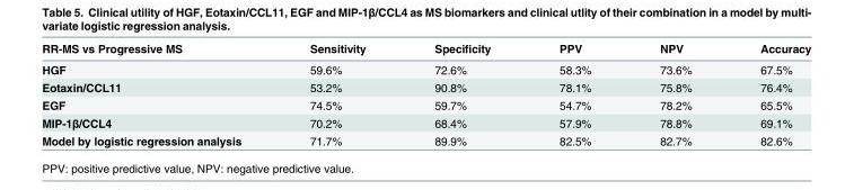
<table><thead><tr><td>RR-MS vs Progressive MS</td><td>Sensitivity</td><td>Specificity</td><td>PPV</td><td>NPV</td><td>Accuracy</td></tr></thead><tbody><tr><td>HGF</td><td>59.6%</td><td>72.6%</td><td>58.3%</td><td>73.6%</td><td>67.5%</td></tr><tr><td>Eotaxin/CCL11</td><td>53.2%</td><td>90.8%</td><td>78.1%</td><td>75.8%</td><td>76.4%</td></tr><tr><td>EGF</td><td>74.5%</td><td>59.7%</td><td>54.7%</td><td>78.2%</td><td>65.5%</td></tr><tr><td>MIP-1β/CCL4</td><td>70.2%</td><td>68.4%</td><td>57.9%</td><td>78.8%</td><td>69.1%</td></tr><tr><td>Model by logistic regression analysis</td><td>71.7%</td><td>89.9%</td><td>82.5%</td><td>82.7%</td><td>82.6%</td></tr></tbody></table>